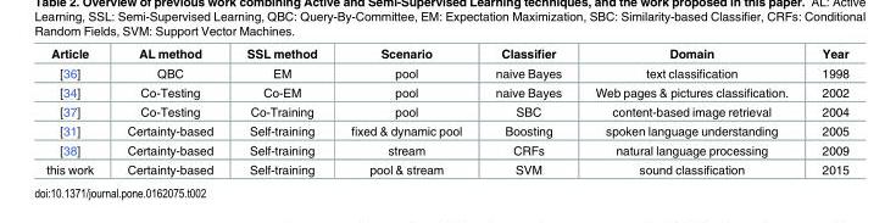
<table><thead><tr><td>Article</td><td>AL method</td><td>SSL method</td><td>Scenario</td><td>Classifier</td><td>Domain</td><td>Year</td></tr></thead><tbody><tr><td>[36]</td><td>QBC</td><td>EM</td><td>pool</td><td>naive Bayes</td><td>text classification</td><td>1998</td></tr><tr><td>[34]</td><td>Co-Testing</td><td>Co-EM</td><td>pool</td><td>naive Bayes</td><td>Web pages &amp; pictures classification.</td><td>2002</td></tr><tr><td>[37]</td><td>Co-Testing</td><td>Co-Training</td><td>pool</td><td>SBC</td><td>content-based image retrieval</td><td>2004</td></tr><tr><td>[31]</td><td>Certainty-based</td><td>Self-training</td><td>fixed &amp; dynamic pool</td><td>Boosting</td><td>spoken language understanding</td><td>2005</td></tr><tr><td>[38]</td><td>Certainty-based</td><td>Self-training</td><td>stream</td><td>CRFs</td><td>natural language processing</td><td>2009</td></tr><tr><td>this work</td><td>Certainty-based</td><td>Self-training</td><td>pool &amp; stream</td><td>SVM</td><td>sound classification</td><td>2015</td></tr></tbody></table>